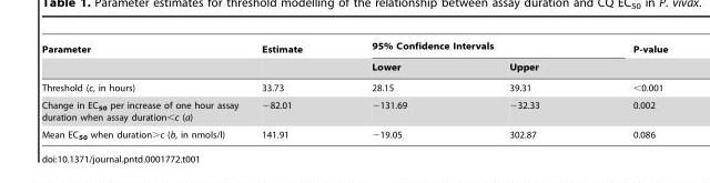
<table><thead><tr><td rowspan="2">Parameter</td><td rowspan="2">Estimate</td><td colspan="2">95% Confidence Intervals</td><td rowspan="2">P-value</td></tr><tr><td>Lower</td><td>Upper</td></tr></thead><tbody><tr><td>Threshold (c, in hours)</td><td>33.73</td><td>28.15</td><td>39.31</td><td>&lt;0.001</td></tr><tr><td>Change in EC<sub>50</sub> per increase of one hour assay duration when assay duration&lt;c (a)</td><td>−82.01</td><td>−131.69</td><td>−32.33</td><td>0.002</td></tr><tr><td>Mean EC<sub>50</sub> when duration&gt;c (b, in nmols/l)</td><td>141.91</td><td>−19.05</td><td>302.87</td><td>0.086</td></tr></tbody></table>